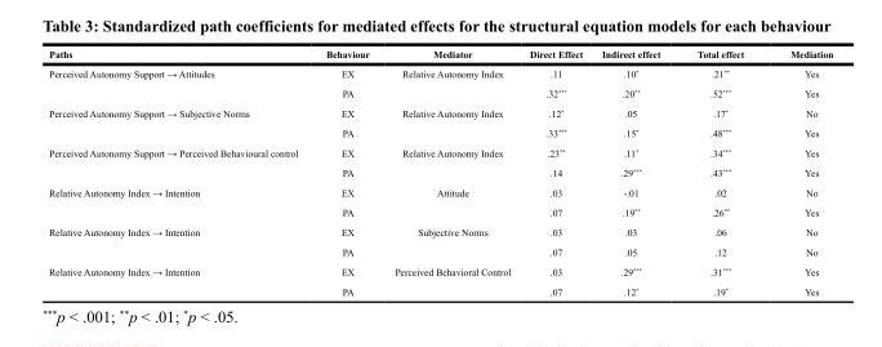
<table><thead><tr><td>Paths</td><td>Behaviour</td><td>Mediator</td><td>Direct Effect</td><td>Indirect effect</td><td>Total effect</td><td>Mediation</td></tr></thead><tbody><tr><td rowspan="2">Perceived Autonomy Support → Attitudes</td><td>EX</td><td rowspan="2">Relative Autonomy Index</td><td>.11</td><td>.10*</td><td>.21**</td><td>Yes</td></tr><tr><td>PA</td><td>.32***</td><td>.20**</td><td>.52***</td><td>Yes</td></tr><tr><td rowspan="2">Perceived Autonomy Support → Subjective Norms</td><td>EX</td><td rowspan="2">Relative Autonomy Index</td><td>.12*</td><td>.05</td><td>.17*</td><td>No</td></tr><tr><td>PA</td><td>.33***</td><td>.15*</td><td>.48***</td><td>Yes</td></tr><tr><td rowspan="2">Perceived Autonomy Support → Perceived Behavioural control</td><td>EX</td><td rowspan="2">Relative Autonomy Index</td><td>.23**</td><td>.11*</td><td>.34***</td><td>Yes</td></tr><tr><td>PA</td><td>.14</td><td>.29***</td><td>.43***</td><td>Yes</td></tr><tr><td rowspan="2">Relative Autonomy Index → Intention</td><td>EX</td><td rowspan="2">Attitude</td><td>.03</td><td>-.01</td><td>.02</td><td>No</td></tr><tr><td>PA</td><td>.07</td><td>.19**</td><td>.26**</td><td>Yes</td></tr><tr><td rowspan="2">Relative Autonomy Index → Intention</td><td>EX</td><td rowspan="2">Subjective Norms</td><td>.03</td><td>.03</td><td>.06</td><td>No</td></tr><tr><td>PA</td><td>.07</td><td>.05</td><td>.12</td><td>No</td></tr><tr><td rowspan="2">Relative Autonomy Index → Intention</td><td>EX</td><td rowspan="2">Perceived Behavioral Control</td><td>.03</td><td>.29***</td><td>.31***</td><td>Yes</td></tr><tr><td>PA</td><td>.07</td><td>.12*</td><td>.19*</td><td>Yes</td></tr></tbody></table>